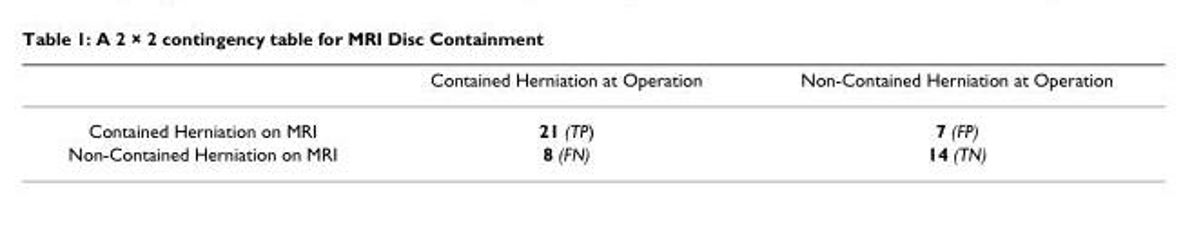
<table><thead><tr><td></td><td>Contained Herniation at Operation</td><td>Non-Contained Herniation at Operation</td></tr></thead><tbody><tr><td>Contained Herniation on MRI</td><td>21 (TP)</td><td>7 (FP)</td></tr><tr><td>Non-Contained Herniation on MRI</td><td>8 (FN)</td><td>14 (TN)</td></tr></tbody></table>